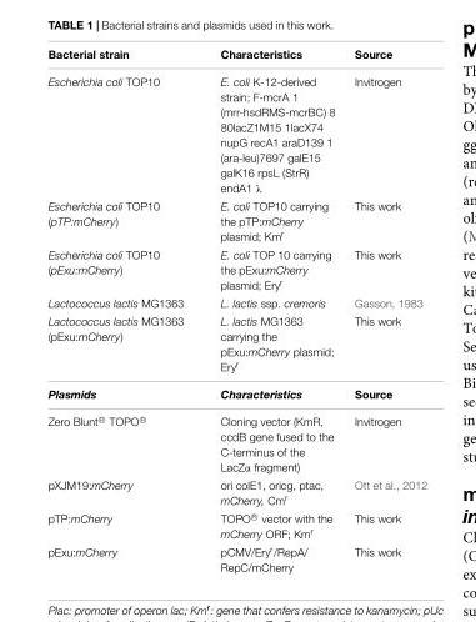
<table><thead><tr><td>Bacterial strain</td><td>Characteristics</td><td>Source</td></tr></thead><tbody><tr><td>Escherichia coli TOP10</td><td>E. coli K-12-derived strain; F-mcrA 1 (mrr-hsdRMS-mcrBC) 8 80lacZ1M15 1lacX74 nupG recA1 araD139 1 (ara-leu)7697 galE15 galK16 rpsL (StrR) endA1 λ</td><td>Invitrogen</td></tr><tr><td>Escherichia coli TOP10 (pTP:mCherry)</td><td>E. coli TOP10 carrying the pTP:mCherry plasmid; Km<sup>r</sup></td><td>This work</td></tr><tr><td>Escherichia coli TOP10 (pExu:mCherry)</td><td>E. coli TOP 10 carrying the pExu:mCherry plasmid; Ery<sup>r</sup></td><td>This work</td></tr><tr><td>Lactococcus lactis MG1363</td><td>L. lactis ssp. cremoris</td><td>Gasson, 1983</td></tr><tr><td>Lactococcus lactis MG1363 (pExu:mCherry)</td><td>L. lactis MG1363 carrying the pExu:mCherry plasmid; Ery<sup>r</sup></td><td>This work</td></tr><tr><td>Plasmids</td><td>Characteristics</td><td>Source</td></tr><tr><td>Zero Blunt R⃝ TOPO R⃝</td><td>Cloning vector (KmR, ccdB gene fused to the C-terminus of the LacZα fragment)</td><td>Invitrogen</td></tr><tr><td>pXJM19:mCherry</td><td>ori colE1, oricg, ptac, mCherry, Cm<sup>r</sup></td><td>Ott et al., 2012</td></tr><tr><td>pTP:mCherry</td><td>TOPO R⃝ vector with the mCherry ORF; Kmr</td><td>This work</td></tr><tr><td>pExu:mCherry</td><td>pCMV/Ery<sup>r</sup>/RepA/ RepC/mCherry</td><td>This work</td></tr></tbody></table>